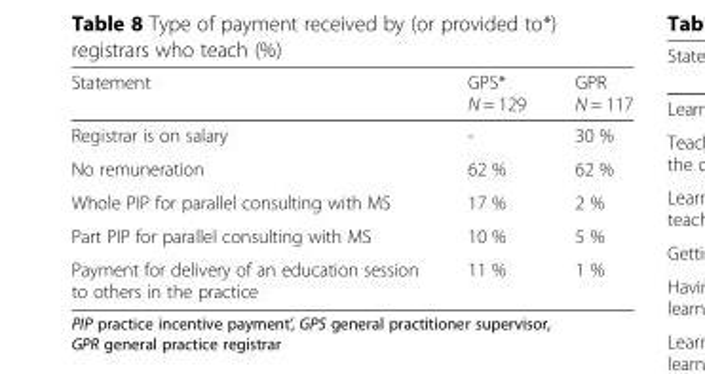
<table><thead><tr><td>Statement</td><td>GPS* N = 129</td><td>GPR N = 117</td></tr></thead><tbody><tr><td>Registrar is on salary</td><td>-</td><td>30 %</td></tr><tr><td>No remuneration</td><td>62 %</td><td>62 %</td></tr><tr><td>Whole PIP for parallel consulting with MS</td><td>17 %</td><td>2 %</td></tr><tr><td>Part PIP for parallel consulting with MS</td><td>10 %</td><td>5 %</td></tr><tr><td>Payment for delivery of an education session to others in the practice</td><td>11 %</td><td>1 %</td></tr></tbody></table>